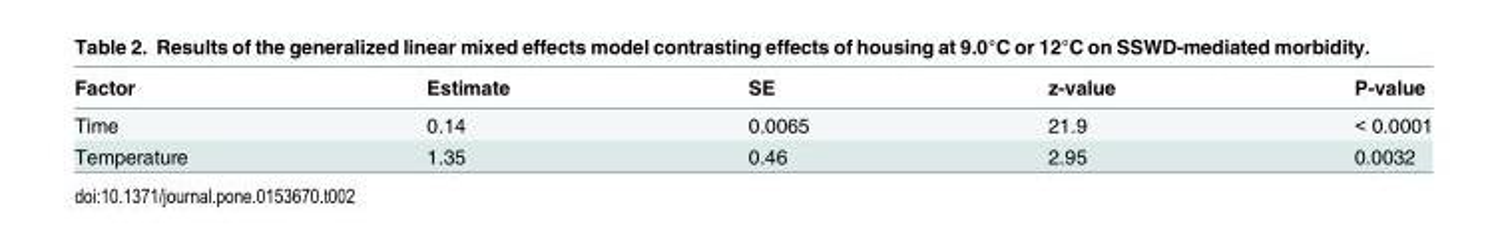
<table><thead><tr><td>Factor</td><td>Estimate</td><td>SE</td><td>z-value</td><td>P-value</td></tr></thead><tbody><tr><td>Time</td><td>0.14</td><td>0.0065</td><td>21.9</td><td>&lt; 0.0001</td></tr><tr><td>Temperature</td><td>1.35</td><td>0.46</td><td>2.95</td><td>0.0032</td></tr></tbody></table>